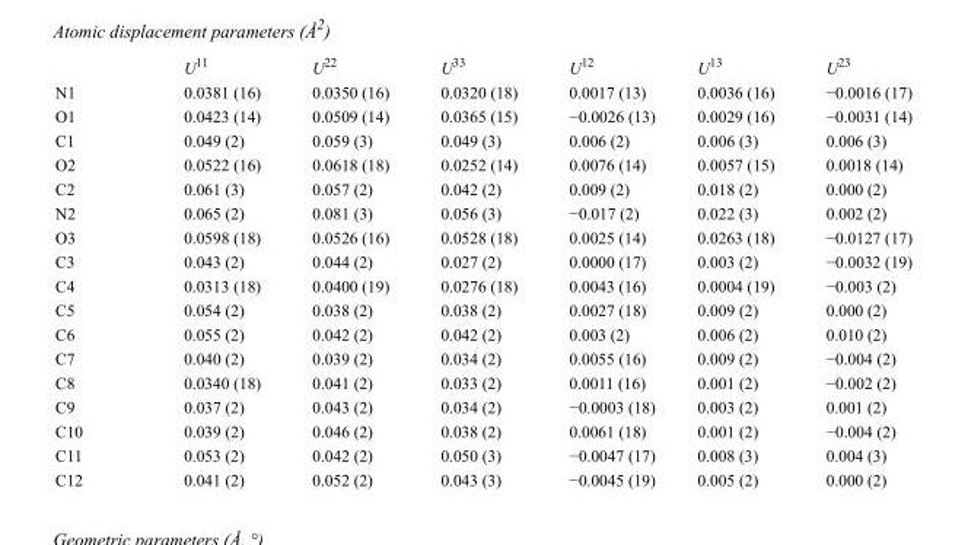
<table><thead><tr><td></td><td>U<sup>11</sup></td><td>U<sup>22</sup></td><td>U<sup>33</sup></td><td>U<sup>12</sup></td><td>U<sup>13</sup></td><td>U<sup>23</sup></td></tr></thead><tbody><tr><td>N1</td><td>0.0381 (16)</td><td>0.0350 (16)</td><td>0.0320 (18)</td><td>0.0017 (13)</td><td>0.0036 (16)</td><td>−0.0016 (17)</td></tr><tr><td>O1</td><td>0.0423 (14)</td><td>0.0509 (14)</td><td>0.0365 (15)</td><td>−0.0026 (13)</td><td>0.0029 (16)</td><td>−0.0031 (14)</td></tr><tr><td>C1</td><td>0.049 (2)</td><td>0.059 (3)</td><td>0.049 (3)</td><td>0.006 (2)</td><td>0.006 (3)</td><td>0.006 (3)</td></tr><tr><td>O2</td><td>0.0522 (16)</td><td>0.0618 (18)</td><td>0.0252 (14)</td><td>0.0076 (14)</td><td>0.0057 (15)</td><td>0.0018 (14)</td></tr><tr><td>C2</td><td>0.061 (3)</td><td>0.057 (2)</td><td>0.042 (2)</td><td>0.009 (2)</td><td>0.018 (2)</td><td>0.000 (2)</td></tr><tr><td>N2</td><td>0.065 (2)</td><td>0.081 (3)</td><td>0.056 (3)</td><td>−0.017 (2)</td><td>0.022 (3)</td><td>0.002 (2)</td></tr><tr><td>O3</td><td>0.0598 (18)</td><td>0.0526 (16)</td><td>0.0528 (18)</td><td>0.0025 (14)</td><td>0.0263 (18)</td><td>−0.0127 (17)</td></tr><tr><td>C3</td><td>0.043 (2)</td><td>0.044 (2)</td><td>0.027 (2)</td><td>0.0000 (17)</td><td>0.003 (2)</td><td>−0.0032 (19)</td></tr><tr><td>C4</td><td>0.0313 (18)</td><td>0.0400 (19)</td><td>0.0276 (18)</td><td>0.0043 (16)</td><td>0.0004 (19)</td><td>−0.003 (2)</td></tr><tr><td>C5</td><td>0.054 (2)</td><td>0.038 (2)</td><td>0.038 (2)</td><td>0.0027 (18)</td><td>0.009 (2)</td><td>0.000 (2)</td></tr><tr><td>C6</td><td>0.055 (2)</td><td>0.042 (2)</td><td>0.042 (2)</td><td>0.003 (2)</td><td>0.006 (2)</td><td>0.010 (2)</td></tr><tr><td>C7</td><td>0.040 (2)</td><td>0.039 (2)</td><td>0.034 (2)</td><td>0.0055 (16)</td><td>0.009 (2)</td><td>−0.004 (2)</td></tr><tr><td>C8</td><td>0.0340 (18)</td><td>0.041 (2)</td><td>0.033 (2)</td><td>0.0011 (16)</td><td>0.001 (2)</td><td>−0.002 (2)</td></tr><tr><td>C9</td><td>0.037 (2)</td><td>0.043 (2)</td><td>0.034 (2)</td><td>−0.0003 (18)</td><td>0.003 (2)</td><td>0.001 (2)</td></tr><tr><td>C10</td><td>0.039 (2)</td><td>0.046 (2)</td><td>0.038 (2)</td><td>0.0061 (18)</td><td>0.001 (2)</td><td>−0.004 (2)</td></tr><tr><td>C11</td><td>0.053 (2)</td><td>0.042 (2)</td><td>0.050 (3)</td><td>−0.0047 (17)</td><td>0.008 (3)</td><td>0.004 (3)</td></tr><tr><td>C12</td><td>0.041 (2)</td><td>0.052 (2)</td><td>0.043 (3)</td><td>−0.0045 (19)</td><td>0.005 (2)</td><td>0.000 (2)</td></tr></tbody></table>